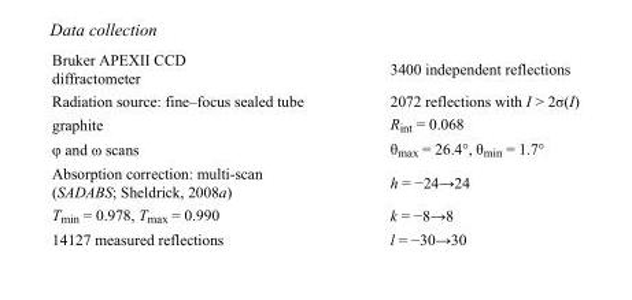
<table><tbody><tr><td>Bruker APEXII CCD diffractometer</td><td>3400 independent reflections</td></tr><tr><td>Radiation source: fine–focus sealed tube</td><td>2072 reflections with I &gt; 2σ(I)</td></tr><tr><td>graphite</td><td>R<sub>int</sub> = 0.068</td></tr><tr><td>φ and ω scans</td><td>θ<sub>max</sub> = 26.4°, θ<sub>min</sub> = 1.7°</td></tr><tr><td>Absorption correction: multi-scan (SADABS; Sheldrick, 2008a)</td><td>h = −24→24</td></tr><tr><td>T<sub>min</sub> = 0.978, T<sub>max</sub> = 0.990</td><td>k = −8→8</td></tr><tr><td>14127 measured reflections</td><td>l = −30→30</td></tr></tbody></table>